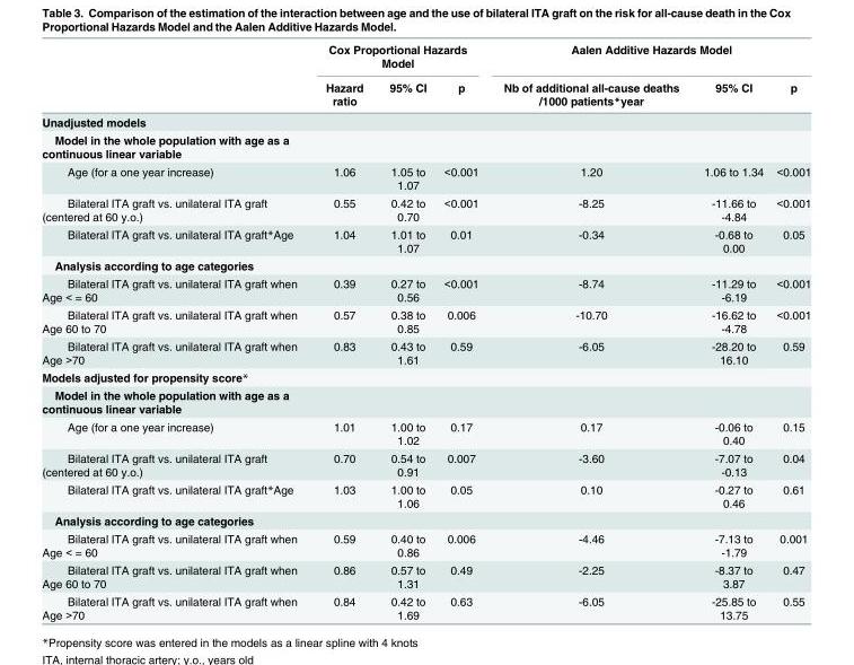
<table><thead><tr><td rowspan="2"></td><td colspan="3">Cox Proportional Hazards Model</td><td colspan="3">Aalen Additive Hazards Model</td></tr><tr><td>Hazard ratio</td><td>95% CI</td><td>p</td><td>Nb of additional all-cause deaths /1000 patients*year</td><td>95% CI</td><td>p</td></tr></thead><tbody><tr><td colspan="7">Unadjusted models</td></tr><tr><td colspan="7">Model in the whole population with age as a continuous linear variable</td></tr><tr><td>Age (for a one year increase)</td><td>1.06</td><td>1.05 to 1.07</td><td>&lt;0.001</td><td>1.20</td><td>1.06 to 1.34</td><td>&lt;0.001</td></tr><tr><td>Bilateral ITA graft vs. unilateral ITA graft (centered at 60 y.o.)</td><td>0.55</td><td>0.42 to 0.70</td><td>&lt;0.001</td><td>-8.25</td><td>-11.66 to -4.84</td><td>&lt;0.001</td></tr><tr><td>Bilateral ITA graft vs. unilateral ITA graft*Age</td><td>1.04</td><td>1.01 to 1.07</td><td>0.01</td><td>-0.34</td><td>-0.68 to 0.00</td><td>0.05</td></tr><tr><td colspan="7">Analysis according to age categories</td></tr><tr><td>Bilateral ITA graft vs. unilateral ITA graft when Age &lt; = 60</td><td>0.39</td><td>0.27 to 0.56</td><td>&lt;0.001</td><td>-8.74</td><td>-11.29 to -6.19</td><td>&lt;0.001</td></tr><tr><td>Bilateral ITA graft vs. unilateral ITA graft when Age 60 to 70</td><td>0.57</td><td>0.38 to 0.85</td><td>0.006</td><td>-10.70</td><td>-16.62 to -4.78</td><td>&lt;0.001</td></tr><tr><td>Bilateral ITA graft vs. unilateral ITA graft when Age &gt;70</td><td>0.83</td><td>0.43 to 1.61</td><td>0.59</td><td>-6.05</td><td>-28.20 to 16.10</td><td>0.59</td></tr><tr><td colspan="7">Models adjusted for propensity score*</td></tr><tr><td colspan="7">Model in the whole population with age as a continuous linear variable</td></tr><tr><td>Age (for a one year increase)</td><td>1.01</td><td>1.00 to 1.02</td><td>0.17</td><td>0.17</td><td>-0.06 to 0.40</td><td>0.15</td></tr><tr><td>Bilateral ITA graft vs. unilateral ITA graft (centered at 60 y.o.)</td><td>0.70</td><td>0.54 to 0.91</td><td>0.007</td><td>-3.60</td><td>-7.07 to -0.13</td><td>0.04</td></tr><tr><td>Bilateral ITA graft vs. unilateral ITA graft*Age</td><td>1.03</td><td>1.00 to 1.06</td><td>0.05</td><td>0.10</td><td>-0.27 to 0.46</td><td>0.61</td></tr><tr><td colspan="7">Analysis according to age categories</td></tr><tr><td>Bilateral ITA graft vs. unilateral ITA graft when Age &lt; = 60</td><td>0.59</td><td>0.40 to 0.86</td><td>0.006</td><td>-4.46</td><td>-7.13 to -1.79</td><td>0.001</td></tr><tr><td>Bilateral ITA graft vs. unilateral ITA graft when Age 60 to 70</td><td>0.86</td><td>0.57 to 1.31</td><td>0.49</td><td>-2.25</td><td>-8.37 to 3.87</td><td>0.47</td></tr><tr><td>Bilateral ITA graft vs. unilateral ITA graft when Age &gt;70</td><td>0.84</td><td>0.42 to 1.69</td><td>0.63</td><td>-6.05</td><td>-25.85 to 13.75</td><td>0.55</td></tr></tbody></table>